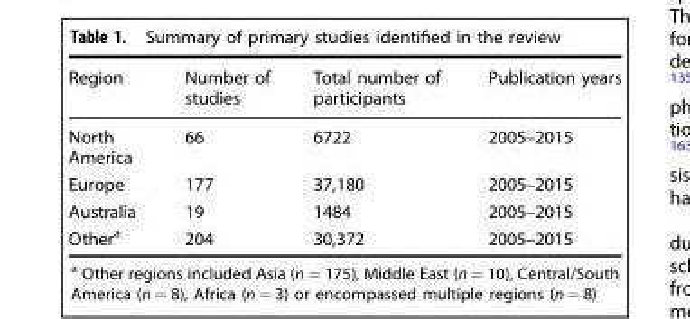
<table><thead><tr><td>Region</td><td>Number of studies</td><td>Total number of participants</td><td>Publication years</td></tr></thead><tbody><tr><td>North America</td><td>66</td><td>6722</td><td>2005–2015</td></tr><tr><td>Europe</td><td>177</td><td>37,180</td><td>2005–2015</td></tr><tr><td>Australia</td><td>19</td><td>1484</td><td>2005–2015</td></tr><tr><td>Other<sup>a</sup></td><td>204</td><td>30,372</td><td>2005–2015</td></tr></tbody></table>